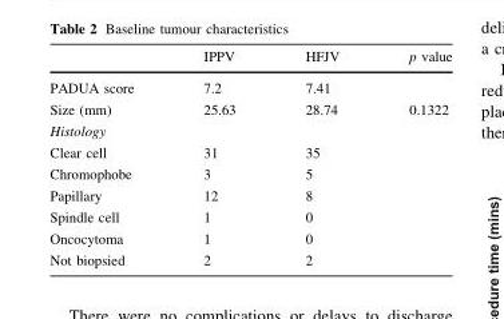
<table><thead><tr><td></td><td>IPPV</td><td>HFJV</td><td>p value</td></tr></thead><tbody><tr><td>PADUA score</td><td>7.2</td><td>7.41</td><td></td></tr><tr><td>Size (mm)</td><td>25.63</td><td>28.74</td><td>0.1322</td></tr><tr><td colspan="3">Histology</td><td rowspan="7"></td></tr><tr><td>Clear cell</td><td>31</td><td>35</td></tr><tr><td>Chromophobe</td><td>3</td><td>5</td></tr><tr><td>Papillary</td><td>12</td><td>8</td></tr><tr><td>Spindle cell</td><td>1</td><td>0</td></tr><tr><td>Oncocytoma</td><td>1</td><td>0</td></tr><tr><td>Not biopsied</td><td>2</td><td>2</td></tr></tbody></table>